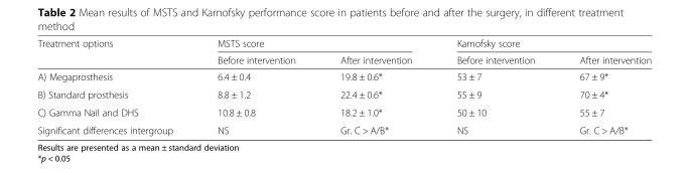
<table><thead><tr><td rowspan="2">Treatment options</td><td colspan="2">MSTS score</td><td colspan="2">Karnofsky score</td></tr><tr><td>Before intervention</td><td>After intervention</td><td>Before intervention</td><td>After intervention</td></tr></thead><tbody><tr><td>A) Megaprosthesis</td><td>6.4 ± 0.4</td><td>19.8 ± 0.6*</td><td>53 ± 7</td><td>67 ± 9*</td></tr><tr><td>B) Standard prosthesis</td><td>8.8 ± 1.2</td><td>22.4 ± 0.6*</td><td>55 ± 9</td><td>70 ± 4*</td></tr><tr><td>C) Gamma Nail and DHS</td><td>10.8 ± 0.8</td><td>18.2 ± 1.0*</td><td>50 ± 10</td><td>55 ± 7</td></tr><tr><td>Significant differences intergroup</td><td>NS</td><td>Gr. C &gt; A/B*</td><td>NS</td><td>Gr. C &gt; A/B*</td></tr></tbody></table>